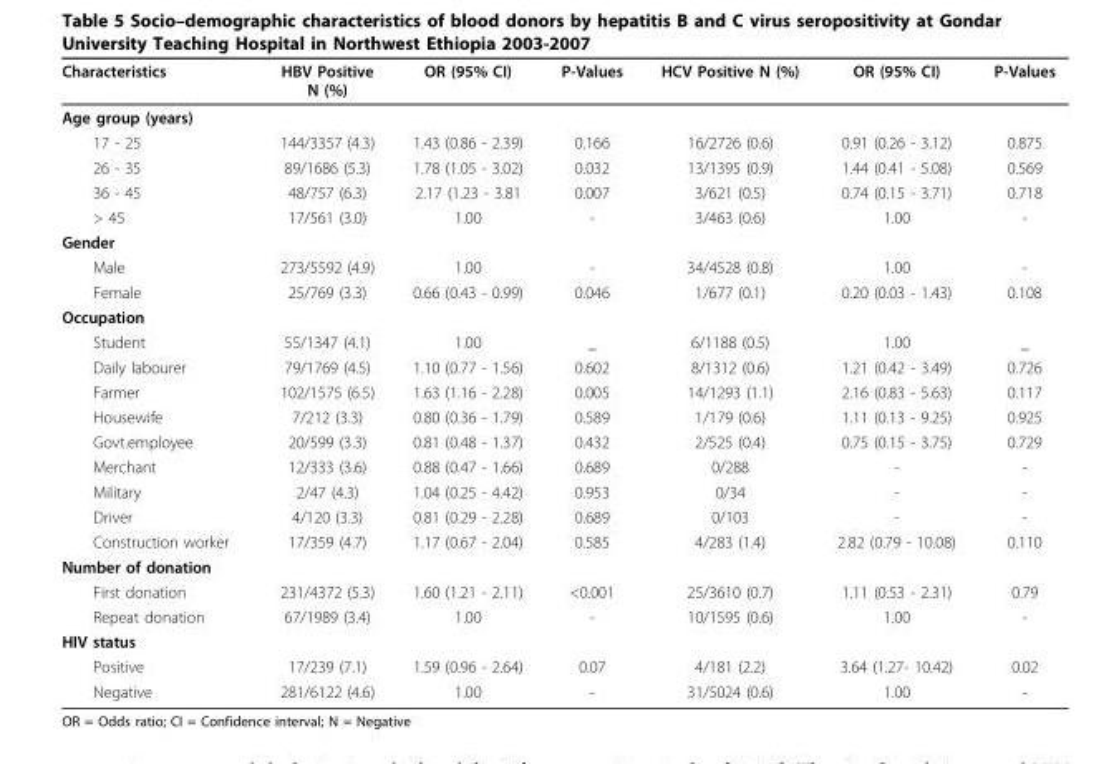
<table><thead><tr><td>Characteristics</td><td>HBV Positive N (%)</td><td>OR (95% CI)</td><td>P-Values</td><td>HCV Positive N (%)</td><td>OR (95% CI)</td><td>P-Values</td></tr></thead><tbody><tr><td colspan="7">Age group (years)</td></tr><tr><td>17 - 25</td><td>144/3357 (4.3)</td><td>1.43 (0.86 - 2.39)</td><td>0.166</td><td>16/2726 (0.6)</td><td>0.91 (0.26 - 3.12)</td><td>0.875</td></tr><tr><td>26 - 35</td><td>89/1686 (5.3)</td><td>1.78 (1.05 - 3.02)</td><td>0.032</td><td>13/1395 (0.9)</td><td>1.44 (0.41 - 5.08)</td><td>0.569</td></tr><tr><td>36 - 45</td><td>48/757 (6.3)</td><td>2.17 (1.23 - 3.81</td><td>0.007</td><td>3/621 (0.5)</td><td>0.74 (0.15 - 3.71)</td><td>0.718</td></tr><tr><td>&gt; 45</td><td>17/561 (3.0)</td><td>1.00</td><td>-</td><td>3/463 (0.6)</td><td>1.00</td><td>-</td></tr><tr><td colspan="7">Gender</td></tr><tr><td>Male</td><td>273/5592 (4.9)</td><td>1.00</td><td>-</td><td>34/4528 (0.8)</td><td>1.00</td><td>-</td></tr><tr><td>Female</td><td>25/769 (3.3)</td><td>0.66 (0.43 - 0.99)</td><td>0.046</td><td>1/677 (0.1)</td><td>0.20 (0.03 - 1.43)</td><td>0.108</td></tr><tr><td colspan="7">Occupation</td></tr><tr><td>Student</td><td>55/1347 (4.1)</td><td>1.00</td><td>_</td><td>6/1188 (0.5)</td><td>1.00</td><td>_</td></tr><tr><td>Daily labourer</td><td>79/1769 (4.5)</td><td>1.10 (0.77 - 1.56)</td><td>0.602</td><td>8/1312 (0.6)</td><td>1.21 (0.42 - 3.49)</td><td>0.726</td></tr><tr><td>Farmer</td><td>102/1575 (6.5)</td><td>1.63 (1.16 - 2.28)</td><td>0.005</td><td>14/1293 (1.1)</td><td>2.16 (0.83 - 5.63)</td><td>0.117</td></tr><tr><td>Housewife</td><td>7/212 (3.3)</td><td>0.80 (0.36 - 1.79)</td><td>0.589</td><td>1/179 (0.6)</td><td>1.11 (0.13 - 9.25)</td><td>0.925</td></tr><tr><td>Govt.employee</td><td>20/599 (3.3)</td><td>0.81 (0.48 - 1.37)</td><td>0.432</td><td>2/525 (0.4)</td><td>0.75 (0.15 - 3.75)</td><td>0.729</td></tr><tr><td>Merchant</td><td>12/333 (3.6)</td><td>0.88 (0.47 - 1.66)</td><td>0.689</td><td>0/288</td><td>-</td><td>-</td></tr><tr><td>Military</td><td>2/47 (4.3)</td><td>1.04 (0.25 - 4.42)</td><td>0.953</td><td>0/34</td><td>-</td><td>-</td></tr><tr><td>Driver</td><td>4/120 (3.3)</td><td>0.81 (0.29 - 2.28)</td><td>0.689</td><td>0/103</td><td>-</td><td>-</td></tr><tr><td>Construction worker</td><td>17/359 (4.7)</td><td>1.17 (0.67 - 2.04)</td><td>0.585</td><td>4/283 (1.4)</td><td>2.82 (0.79 - 10.08)</td><td>0.110</td></tr><tr><td colspan="7">Number of donation</td></tr><tr><td>First donation</td><td>231/4372 (5.3)</td><td>1.60 (1.21 - 2.11)</td><td>&lt;0.001</td><td>25/3610 (0.7)</td><td>1.11 (0.53 - 2.31)</td><td>0.79</td></tr><tr><td>Repeat donation</td><td>67/1989 (3.4)</td><td>1.00</td><td>-</td><td>10/1595 (0.6)</td><td>1.00</td><td>-</td></tr><tr><td colspan="7">HIV status</td></tr><tr><td>Positive</td><td>17/239 (7.1)</td><td>1.59 (0.96 - 2.64)</td><td>0.07</td><td>4/181 (2.2)</td><td>3.64 (1.27- 10.42)</td><td>0.02</td></tr><tr><td>Negative</td><td>281/6122 (4.6)</td><td>1.00</td><td>-</td><td>31/5024 (0.6)</td><td>1.00</td><td>-</td></tr></tbody></table>